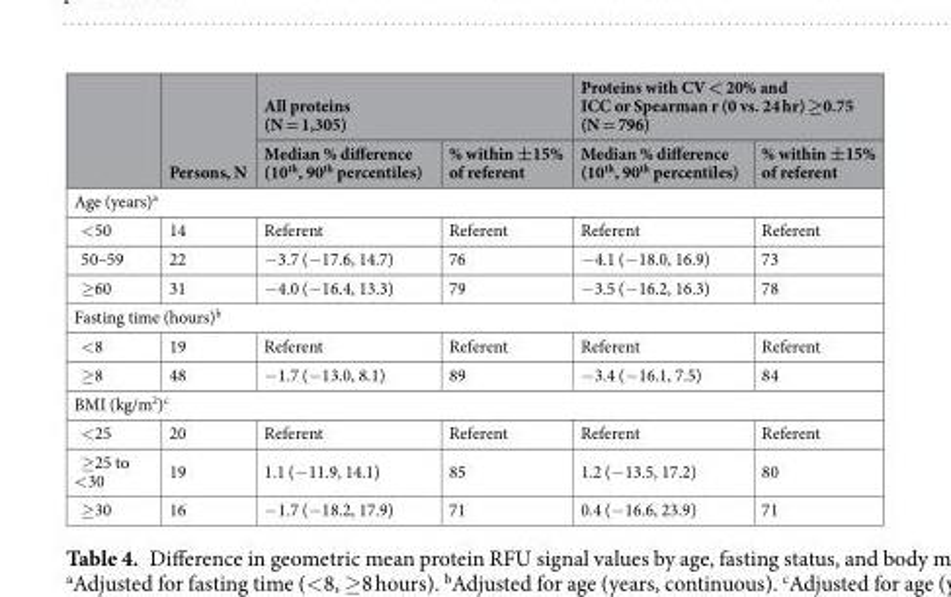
<table><thead><tr><td rowspan="2"></td><td rowspan="2">Persons, N</td><td colspan="2">All proteins (N = 1,305)</td><td colspan="2">Proteins with CV &lt; 20% and ICC or Spearman r (0 vs. 24 hr) ≥0.75 (N = 796)</td></tr><tr><td>Median % difference (10<sup>th</sup>, 90<sup>th</sup> percentiles)</td><td>% within ±15% of referent</td><td>Median % difference (10<sup>th</sup>, 90<sup>th</sup> percentiles)</td><td>% within ±15% of referent</td></tr></thead><tbody><tr><td colspan="6">Age (years)<sup>a</sup></td></tr><tr><td>&lt;50</td><td>14</td><td>Referent</td><td>Referent</td><td>Referent</td><td>Referent</td></tr><tr><td>50–59</td><td>22</td><td>−3.7 (−17.6, 14.7)</td><td>76</td><td>−4.1 (−18.0, 16.9)</td><td>73</td></tr><tr><td>≥60</td><td>31</td><td>−4.0 (−16.4, 13.3)</td><td>79</td><td>−3.5 (−16.2, 16.3)</td><td>78</td></tr><tr><td colspan="6">Fasting time (hours)<sup>b</sup></td></tr><tr><td>&lt;8</td><td>19</td><td>Referent</td><td>Referent</td><td>Referent</td><td>Referent</td></tr><tr><td>≥8</td><td>48</td><td>−1.7 (−13.0, 8.1)</td><td>89</td><td>−3.4 (−16.1, 7.5)</td><td>84</td></tr><tr><td colspan="6">BMI (kg/m<sup>2</sup>)<sup>c</sup></td></tr><tr><td>&lt;25</td><td>20</td><td>Referent</td><td>Referent</td><td>Referent</td><td>Referent</td></tr><tr><td>≥25 to &lt;30</td><td>19</td><td>1.1 (−11.9, 14.1)</td><td>85</td><td>1.2 (−13.5, 17.2)</td><td>80</td></tr><tr><td>≥30</td><td>16</td><td>−1.7 (−18.2, 17.9)</td><td>71</td><td>0.4 (−16.6, 23.9)</td><td>71</td></tr></tbody></table>